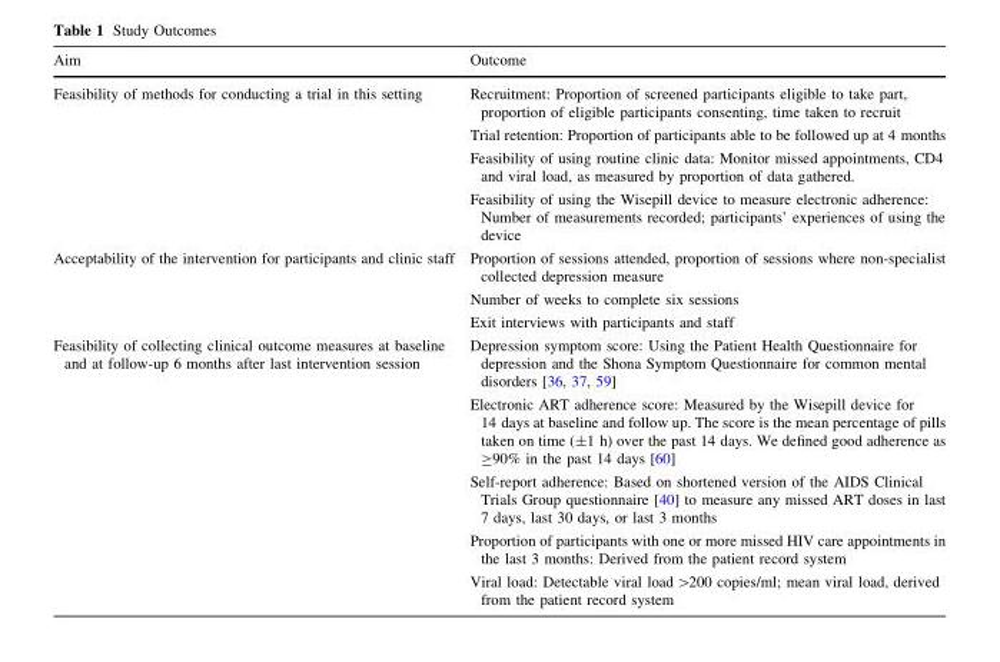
<table><thead><tr><td>Aim</td><td>Outcome</td></tr></thead><tbody><tr><td>Feasibility of methods for conducting a trial in this setting</td><td>Recruitment: Proportion of screened participants eligible to take part, proportion of eligible participants consenting, time taken to recruit Trial retention: Proportion of participants able to be followed up at 4 months Feasibility of using routine clinic data: Monitor missed appointments, CD4 and viral load, as measured by proportion of data gathered. Feasibility of using the Wisepill device to measure electronic adherence: Number of measurements recorded; participants’ experiences of using the device</td></tr><tr><td>Acceptability of the intervention for participants and clinic staff</td><td>Proportion of sessions attended, proportion of sessions where non-specialist collected depression measure Number of weeks to complete six sessions Exit interviews with participants and staff</td></tr><tr><td>Feasibility of collecting clinical outcome measures at baseline and at follow-up 6 months after last intervention session</td><td>Depression symptom score: Using the Patient Health Questionnaire for depression and the Shona Symptom Questionnaire for common mental disorders [36, 37, 59] Electronic ART adherence score: Measured by the Wisepill device for 14 days at baseline and follow up. The score is the mean percentage of pills taken on time (±1 h) over the past 14 days. We defined good adherence as ≥90% in the past 14 days [60] Self-report adherence: Based on shortened version of the AIDS Clinical Trials Group questionnaire [40] to measure any missed ART doses in last 7 days, last 30 days, or last 3 months Proportion of participants with one or more missed HIV care appointments in the last 3 months: Derived from the patient record system Viral load: Detectable viral load &gt;200 copies/ml; mean viral load, derived from the patient record system</td></tr></tbody></table>